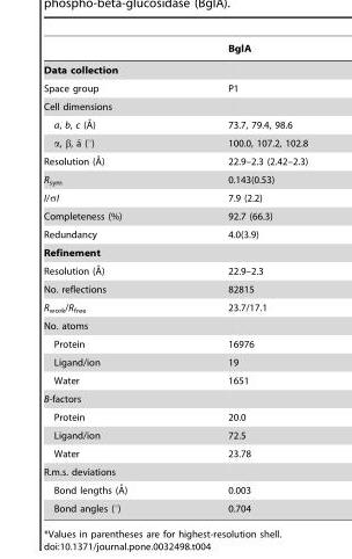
<table><thead><tr><td></td><td>BglA</td></tr></thead><tbody><tr><td colspan="2">Data collection</td></tr><tr><td>Space group</td><td>P1</td></tr><tr><td colspan="2">Cell dimensions</td></tr><tr><td>a, b, c (A˚)</td><td>73.7, 79.4, 98.6</td></tr><tr><td>a, b, a˜ (u)</td><td>100.0, 107.2, 102.8</td></tr><tr><td>Resolution (A˚)</td><td>22.9–2.3 (2.42–2.3)</td></tr><tr><td>R<sub>sym</sub></td><td>0.143(0.53)</td></tr><tr><td>I/σI</td><td>7.9 (2.2)</td></tr><tr><td>Completeness (%)</td><td>92.7 (66.3)</td></tr><tr><td>Redundancy</td><td>4.0(3.9)</td></tr><tr><td colspan="2">Refinement</td></tr><tr><td>Resolution (A˚)</td><td>22.9–2.3</td></tr><tr><td>No. reflections</td><td>82815</td></tr><tr><td>R<sub>work</sub>/R<sub>free</sub></td><td>23.7/17.1</td></tr><tr><td colspan="2">No. atoms</td></tr><tr><td>Protein</td><td>16976</td></tr><tr><td>Ligand/ion</td><td>19</td></tr><tr><td>Water</td><td>1651</td></tr><tr><td colspan="2">B-factors</td></tr><tr><td>Protein</td><td>20.0</td></tr><tr><td>Ligand/ion</td><td>72.5</td></tr><tr><td>Water</td><td>23.78</td></tr><tr><td colspan="2">R.m.s. deviations</td></tr><tr><td>Bond lengths (A˚)</td><td>0.003</td></tr><tr><td>Bond angles (°)</td><td>0.704</td></tr></tbody></table>